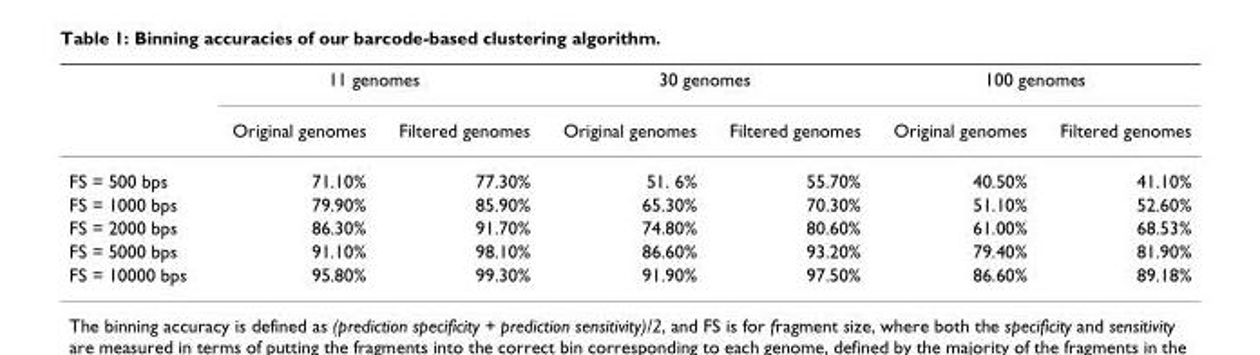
<table><thead><tr><td rowspan="2"></td><td colspan="2">11 genomes</td><td colspan="2">30 genomes</td><td colspan="2">100 genomes</td></tr><tr><td>Original genomes</td><td>Filtered genomes</td><td>Original genomes</td><td>Filtered genomes</td><td>Original genomes</td><td>Filtered genomes</td></tr></thead><tbody><tr><td>FS = 500 bps</td><td>71.10%</td><td>77.30%</td><td>51. 6%</td><td>55.70%</td><td>40.50%</td><td>41.10%</td></tr><tr><td>FS = 1000 bps</td><td>79.90%</td><td>85.90%</td><td>65.30%</td><td>70.30%</td><td>51.10%</td><td>52.60%</td></tr><tr><td>FS = 2000 bps</td><td>86.30%</td><td>91.70%</td><td>74.80%</td><td>80.60%</td><td>61.00%</td><td>68.53%</td></tr><tr><td>FS = 5000 bps</td><td>91.10%</td><td>98.10%</td><td>86.60%</td><td>93.20%</td><td>79.40%</td><td>81.90%</td></tr><tr><td>FS = 10000 bps</td><td>95.80%</td><td>99.30%</td><td>91.90%</td><td>97.50%</td><td>86.60%</td><td>89.18%</td></tr></tbody></table>